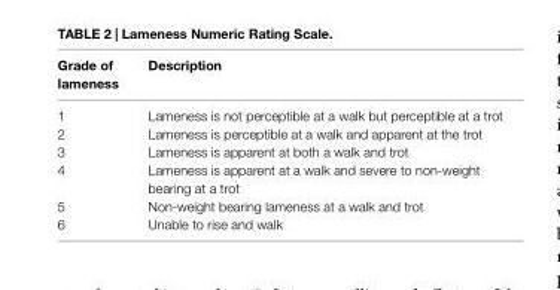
<table><thead><tr><td>grade of lameness</td><td>Description</td></tr></thead><tbody><tr><td>1</td><td>Lameness is not perceptible at a walk but perceptible at a trot</td></tr><tr><td>2</td><td>Lameness is perceptible at a walk and apparent at the trot</td></tr><tr><td>3</td><td>Lameness is apparent at both a walk and trot</td></tr><tr><td>4</td><td>Lameness is apparent at a walk and severe to non-weight bearing at a trot</td></tr><tr><td>5</td><td>Non-weight bearing lameness at a walk and trot</td></tr><tr><td>6</td><td>Unable to rise and walk</td></tr></tbody></table>